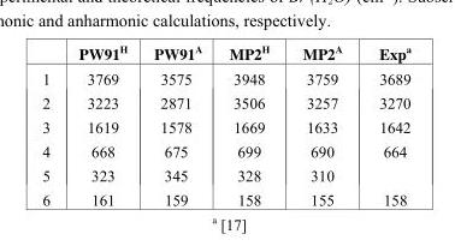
<table><thead><tr><td></td><td>PW91<sup>H</sup></td><td>PW91<sup>A</sup></td><td>MP2<sup>H</sup></td><td>MP2<sup>A</sup></td><td>Exp<sup>a</sup></td></tr></thead><tbody><tr><td>1</td><td>3769</td><td>3575</td><td>3948</td><td>3759</td><td>3689</td></tr><tr><td>2</td><td>3223</td><td>2871</td><td>3506</td><td>3257</td><td>3270</td></tr><tr><td>3</td><td>1619</td><td>1578</td><td>1669</td><td>1633</td><td>1642</td></tr><tr><td>4</td><td>668</td><td>675</td><td>699</td><td>690</td><td>664</td></tr><tr><td>5</td><td>323</td><td>345</td><td>328</td><td>310</td><td></td></tr><tr><td>6</td><td>161</td><td>159</td><td>158</td><td>155</td><td>158</td></tr></tbody></table>